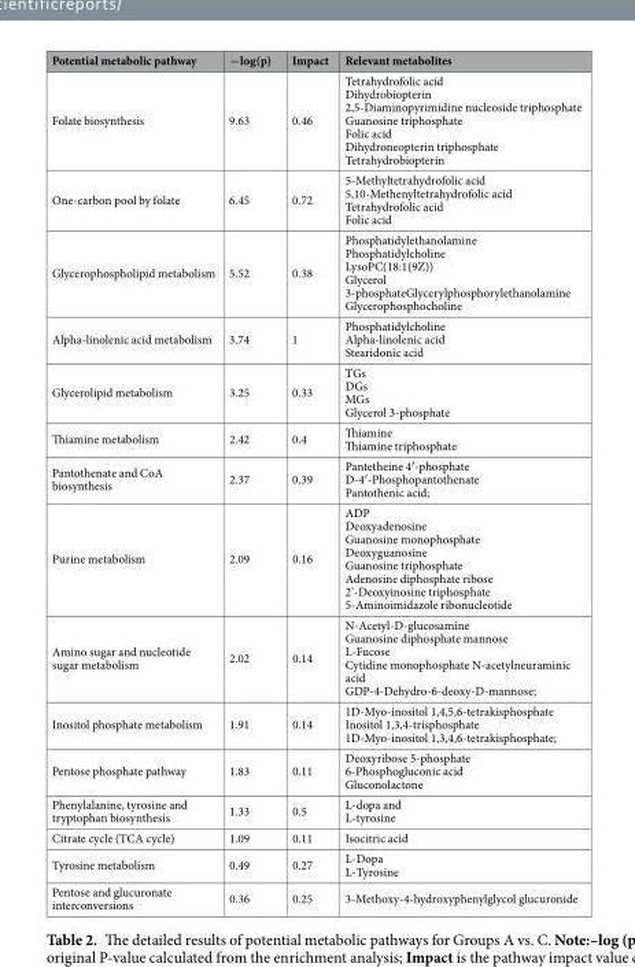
<table><thead><tr><td>Potential metabolic pathway</td><td>−log(p)</td><td>Impact</td><td>Relevant metabolites</td></tr></thead><tbody><tr><td>Folate biosynthesis</td><td>9.63</td><td>0.46</td><td>Tetrahydrofolic acid Dihydrobiopterin 2,5-Diaminopyrimidine nucleoside triphosphate Guanosine triphosphate Folic acid Dihydroneopterin triphosphate Tetrahydrobiopterin</td></tr><tr><td>One-carbon pool by folate</td><td>6.45</td><td>0.72</td><td>5-Methyltetrahydrofolic acid 5,10-Methenyltetrahydrofolic acid Tetrahydrofolic acid Folic acid</td></tr><tr><td>Glycerophospholipid metabolism</td><td>5.52</td><td>0.38</td><td>Phosphatidylethanolamine Phosphatidylcholine LysoPC(18:1(9Z)) Glycerol 3-phosphateGlycerylphosphorylethanolamine Glycerophosphocholine</td></tr><tr><td>Alpha-linolenic acid metabolism</td><td>3.74</td><td>1</td><td>Phosphatidylcholine Alpha-linolenic acid Stearidonic acid</td></tr><tr><td>Glycerolipid metabolism</td><td>3.25</td><td>0.33</td><td>TGs DGs MGs Glycerol 3-phosphate</td></tr><tr><td>Thiamine metabolism</td><td>2.42</td><td>0.4</td><td>Thiamine Thiamine triphosphate</td></tr><tr><td>Pantothenate and CoA biosynthesis</td><td>2.37</td><td>0.39</td><td>Pantetheine 4′-phosphate D-4′-Phosphopantothenate Pantothenic acid;</td></tr><tr><td>Purine metabolism</td><td>2.09</td><td>0.16</td><td>ADP Deoxyadenosine Guanosine monophosphate Deoxyguanosine Guanosine triphosphate Adenosine diphosphate ribose 2’-Deoxyinosine triphosphate 5-Aminoimidazole ribonucleotide</td></tr><tr><td>Amino sugar and nucleotide sugar metabolism</td><td>2.02</td><td>0.14</td><td>N-Acetyl-D-glucosamine Guanosine diphosphate mannose L-Fucose Cytidine monophosphate N-acetylneuraminic acid GDP-4-Dehydro-6-deoxy-D-mannose;</td></tr><tr><td>Inositol phosphate metabolism</td><td>1.91</td><td>0.14</td><td>1D-Myo-inositol 1,4,5,6-tetrakisphosphate Inositol 1,3,4-trisphosphate 1D-Myo-inositol 1,3,4,6-tetrakisphosphate;</td></tr><tr><td>Pentose phosphate pathway</td><td>1.83</td><td>0.11</td><td>Deoxyribose 5-phosphate 6-Phosphogluconic acid Gluconolactone</td></tr><tr><td>Phenylalanine, tyrosine and tryptophan biosynthesis</td><td>1.33</td><td>0.5</td><td>L-dopa and L-tyrosine</td></tr><tr><td>Citrate cycle (TCA cycle)</td><td>1.09</td><td>0.11</td><td>Isocitric acid</td></tr><tr><td>Tyrosine metabolism</td><td>0.49</td><td>0.27</td><td>L-Dopa L-Tyrosine</td></tr><tr><td>Pentose and glucuronate interconversions</td><td>0.36</td><td>0.25</td><td>3-Methoxy-4-hydroxyphenylglycol glucuronide</td></tr></tbody></table>